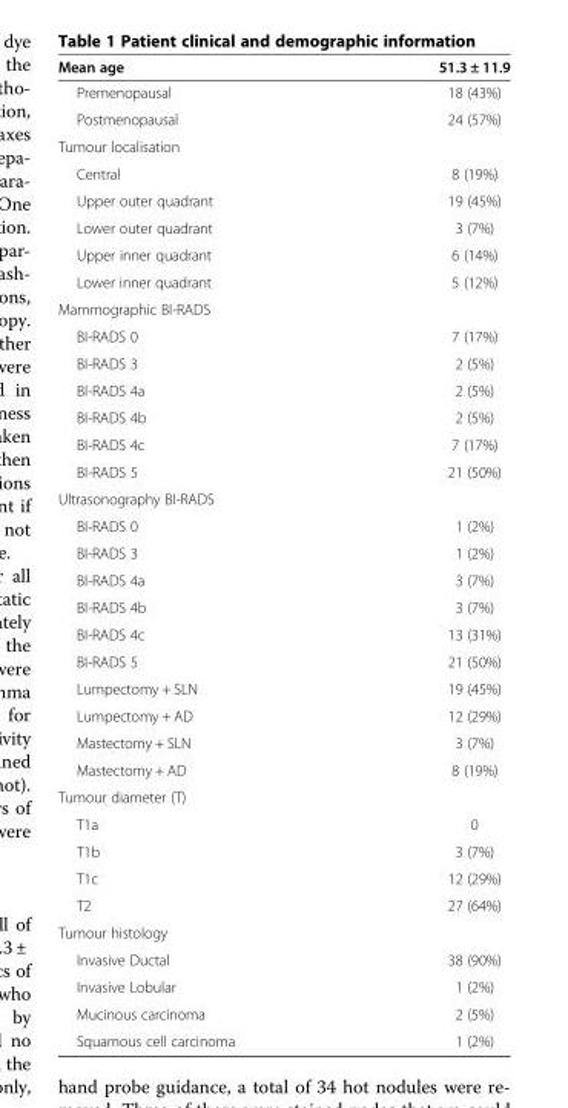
<table><thead><tr><td>Mean age</td><td>51.3 ± 11.9</td></tr></thead><tbody><tr><td>Premenopausal</td><td>18 (43%)</td></tr><tr><td>Postmenopausal</td><td>24 (57%)</td></tr><tr><td colspan="2">Tumour localisation</td></tr><tr><td>Central</td><td>8 (19%)</td></tr><tr><td>Upper outer quadrant</td><td>19 (45%)</td></tr><tr><td>Lower outer quadrant</td><td>3 (7%)</td></tr><tr><td>Upper inner quadrant</td><td>6 (14%)</td></tr><tr><td>Lower inner quadrant</td><td>5 (12%)</td></tr><tr><td colspan="2">Mammographic BI-RADS</td></tr><tr><td>BI-RADS 0</td><td>7 (17%)</td></tr><tr><td>BI-RADS 3</td><td>2 (5%)</td></tr><tr><td>BI-RADS 4a</td><td>2 (5%)</td></tr><tr><td>BI-RADS 4b</td><td>2 (5%)</td></tr><tr><td>BI-RADS 4c</td><td>7 (17%)</td></tr><tr><td>BI-RADS 5</td><td>21 (50%)</td></tr><tr><td colspan="2">Ultrasonography BI-RADS</td></tr><tr><td>BI-RADS 0</td><td>1 (2%)</td></tr><tr><td>BI-RADS 3</td><td>1 (2%)</td></tr><tr><td>BI-RADS 4a</td><td>3 (7%)</td></tr><tr><td>BI-RADS 4b</td><td>3 (7%)</td></tr><tr><td>BI-RADS 4c</td><td>13 (31%)</td></tr><tr><td>BI-RADS 5</td><td>21 (50%)</td></tr><tr><td>Lumpectomy + SLN</td><td>19 (45%)</td></tr><tr><td>Lumpectomy + AD</td><td>12 (29%)</td></tr><tr><td>Mastectomy + SLN</td><td>3 (7%)</td></tr><tr><td>Mastectomy + AD</td><td>8 (19%)</td></tr><tr><td colspan="2">Tumour diameter (T)</td></tr><tr><td>T1a</td><td>0</td></tr><tr><td>T1b</td><td>3 (7%)</td></tr><tr><td>T1c</td><td>12 (29%)</td></tr><tr><td>T2</td><td>27 (64%)</td></tr><tr><td colspan="2">Tumour histology</td></tr><tr><td>Invasive Ductal</td><td>38 (90%)</td></tr><tr><td>Invasive Lobular</td><td>1 (2%)</td></tr><tr><td>Mucinous carcinoma</td><td>2 (5%)</td></tr><tr><td>Squamous cell carcinoma</td><td>1 (2%)</td></tr></tbody></table>